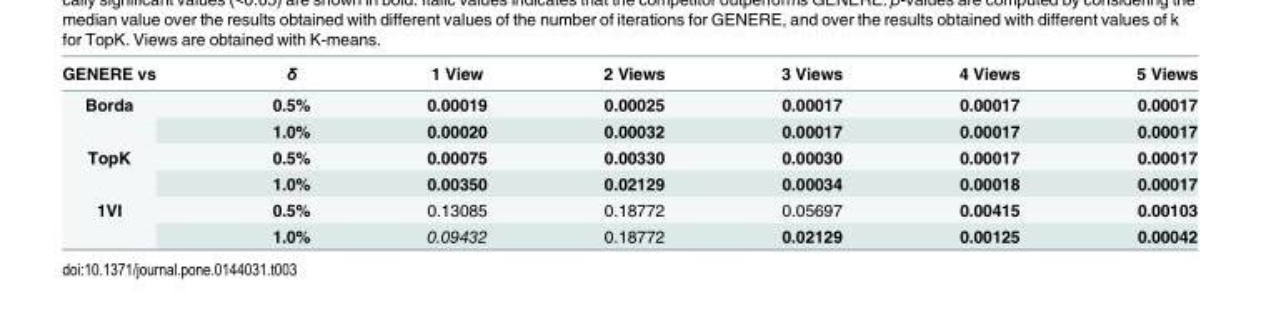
<table><thead><tr><td>GENERE vs</td><td>δ</td><td>1 View</td><td>2 Views</td><td>3 Views</td><td>4 Views</td><td>5 Views</td></tr></thead><tbody><tr><td rowspan="2">Borda</td><td>0.5%</td><td>0.00019</td><td>0.00025</td><td>0.00017</td><td>0.00017</td><td>0.00017</td></tr><tr><td>1.0%</td><td>0.00020</td><td>0.00032</td><td>0.00017</td><td>0.00017</td><td>0.00017</td></tr><tr><td rowspan="2">TopK</td><td>0.5%</td><td>0.00075</td><td>0.00330</td><td>0.00030</td><td>0.00017</td><td>0.00017</td></tr><tr><td>1.0%</td><td>0.00350</td><td>0.02129</td><td>0.00034</td><td>0.00018</td><td>0.00017</td></tr><tr><td rowspan="2">1VI</td><td>0.5%</td><td>0.13085</td><td>0.18772</td><td>0.05697</td><td>0.00415</td><td>0.00103</td></tr><tr><td>1.0%</td><td>0.09432</td><td>0.18772</td><td>0.02129</td><td>0.00125</td><td>0.00042</td></tr></tbody></table>